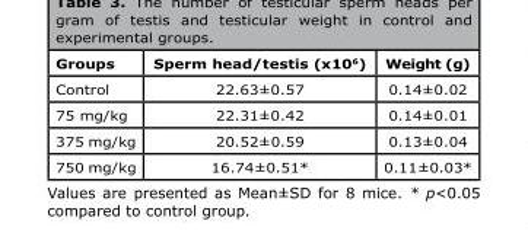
<table><thead><tr><td>Groups</td><td>Sperm head/testis (x10<sup>6</sup>)</td><td>Weight (g)</td></tr></thead><tbody><tr><td>Control</td><td>22.63±0.57</td><td>0.14±0.02</td></tr><tr><td>75 mg/kg</td><td>22.31±0.42</td><td>0.14±0.01</td></tr><tr><td>375 mg/kg</td><td>20.52±0.59</td><td>0.13±0.04</td></tr><tr><td>750 mg/kg</td><td>16.74±0.51*</td><td>0.11±0.03*</td></tr></tbody></table>